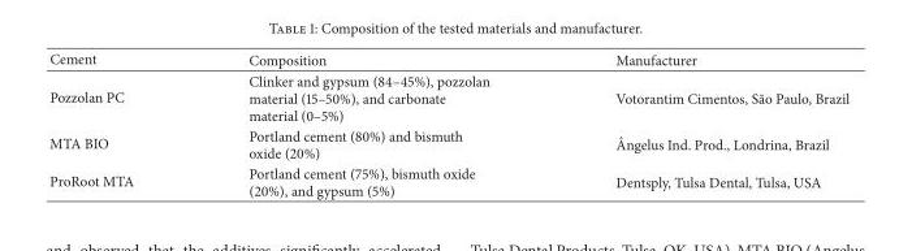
<table><thead><tr><td>Cement</td><td>Composition</td><td>Manufacturer</td></tr></thead><tbody><tr><td>Pozzolan PC</td><td>Clinker and gypsum (84–45%), pozzolan material (15–50%), and carbonate material (0–5%)</td><td>Votorantim Cimentos, S˜ao Paulo, Brazil</td></tr><tr><td>MTA BIO</td><td>Portland cement (80%) and bismuth oxide (20%)</td><td>ˆAngelus Ind. Prod., Londrina, Brazil</td></tr><tr><td>ProRoot MTA</td><td>Portland cement (75%), bismuth oxide (20%), and gypsum (5%)</td><td>Dentsply, Tulsa Dental, Tulsa, USA</td></tr></tbody></table>